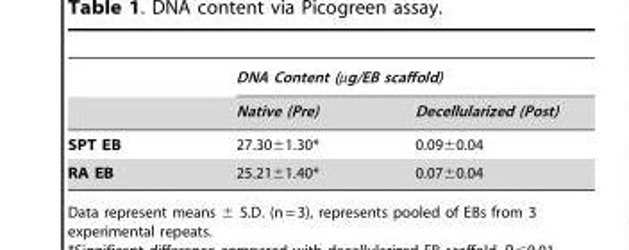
<table><thead><tr><td rowspan="2"></td><td colspan="2">DNA Content (µg/EB scaffold)</td></tr><tr><td>Native (Pre)</td><td>Decellularized (Post)</td></tr></thead><tbody><tr><td>SPT EB</td><td>27.30±1.30*</td><td>0.09±0.04</td></tr><tr><td>RA EB</td><td>25.21±1.40*</td><td>0.07±0.04</td></tr></tbody></table>